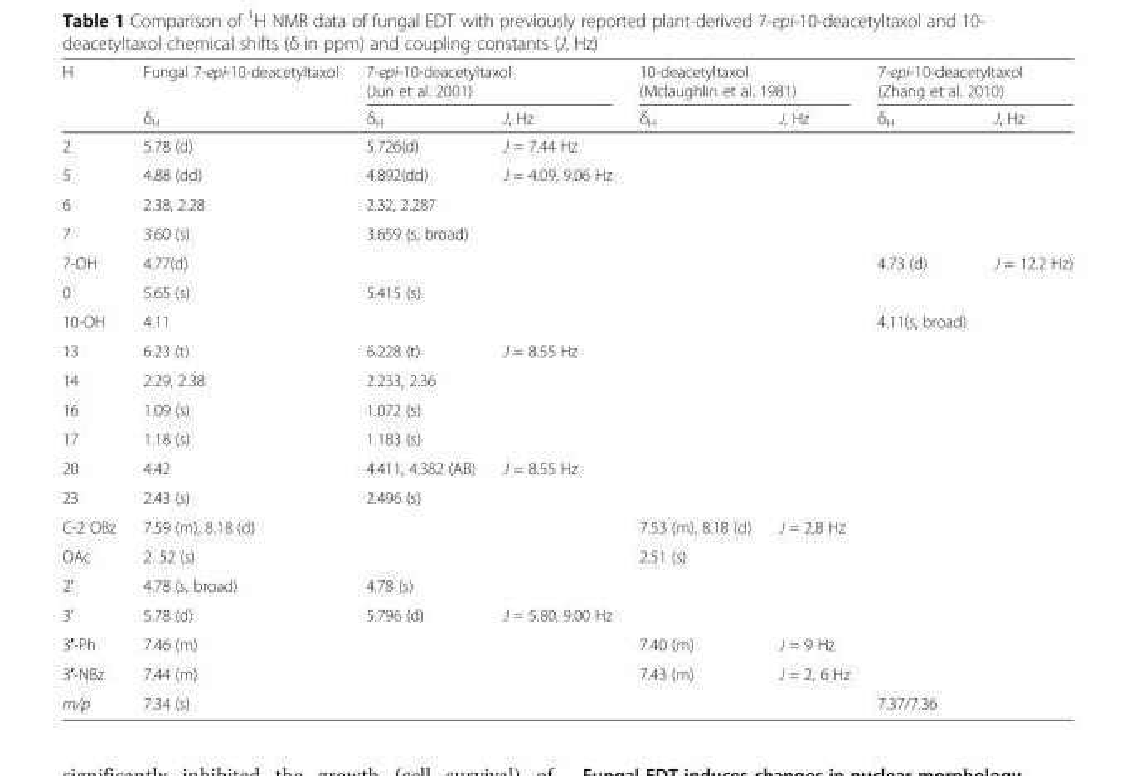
<table><thead><tr><td rowspan="2">H</td><td rowspan="2">Fungal 7-epi-10-deacetyltaxol δ<sub>H</sub></td><td colspan="2">7-epi-10-deacetyltaxol (Jun et al. 2001)</td><td colspan="2">10-deacetyltaxol (Mclaughlin et al. 1981)</td><td colspan="2">7-epi-10-deacetyltaxol (Zhang et al. 2010)</td></tr><tr><td>δ<sub>H</sub></td><td>J, Hz</td><td>δ<sub>H</sub></td><td>J, Hz</td><td>δ<sub>H</sub></td><td>J, Hz</td></tr></thead><tbody><tr><td>2</td><td>5.78 (d)</td><td>5.726(d)</td><td>J = 7.44 Hz</td><td></td><td></td><td></td><td></td></tr><tr><td>5</td><td>4.88 (dd)</td><td>4.892(dd)</td><td>J = 4.09, 9.06 Hz</td><td></td><td></td><td></td><td></td></tr><tr><td>6</td><td>2.38, 2.28</td><td>2.32, 2.287</td><td></td><td></td><td></td><td></td><td></td></tr><tr><td>7</td><td>3.60 (s)</td><td>3.659 (s, broad)</td><td></td><td></td><td></td><td></td><td></td></tr><tr><td>7-OH</td><td>4.77(d)</td><td></td><td></td><td></td><td></td><td>4.73 (d)</td><td>J = 12.2 Hz)</td></tr><tr><td>0</td><td>5.65 (s)</td><td>5.415 (s)</td><td></td><td></td><td></td><td></td><td></td></tr><tr><td>10-OH</td><td>4.11</td><td></td><td></td><td></td><td></td><td>4.11(s, broad)</td><td></td></tr><tr><td>13</td><td>6.23 (t)</td><td>6.228 (t)</td><td>J = 8.55 Hz</td><td></td><td></td><td></td><td></td></tr><tr><td>14</td><td>2.29, 2.38</td><td>2.233, 2.36</td><td></td><td></td><td></td><td></td><td></td></tr><tr><td>16</td><td>1.09 (s)</td><td>1.072 (s)</td><td></td><td></td><td></td><td></td><td></td></tr><tr><td>17</td><td>1.18 (s)</td><td>1.183 (s)</td><td></td><td></td><td></td><td></td><td></td></tr><tr><td>20</td><td>4.42</td><td>4.411, 4.382 (AB)</td><td>J = 8.55 Hz</td><td></td><td></td><td></td><td></td></tr><tr><td>23</td><td>2.43 (s)</td><td>2.496 (s)</td><td></td><td></td><td></td><td></td><td></td></tr><tr><td>C-2 OBz</td><td>7.59 (m), 8.18 (d)</td><td></td><td></td><td>7.53 (m), 8.18 (d)</td><td>J = 2,8 Hz</td><td></td><td></td></tr><tr><td>OAc</td><td>2. 52 (s)</td><td></td><td></td><td>2.51 (s)</td><td></td><td></td><td></td></tr><tr><td>2’</td><td>4.78 (s, broad)</td><td>4.78 (s)</td><td></td><td></td><td></td><td></td><td></td></tr><tr><td>3’</td><td>5.78 (d)</td><td>5.796 (d)</td><td>J = 5.80, 9.00 Hz</td><td></td><td></td><td></td><td></td></tr><tr><td>3′-Ph</td><td>7.46 (m)</td><td></td><td></td><td>7.40 (m)</td><td>J = 9 Hz</td><td></td><td></td></tr><tr><td>3′-NBz</td><td>7.44 (m)</td><td></td><td></td><td>7.43 (m)</td><td>J = 2, 6 Hz</td><td></td><td></td></tr><tr><td>m/p</td><td>7.34 (s)</td><td></td><td></td><td></td><td></td><td>7.37/7.36</td><td></td></tr></tbody></table>